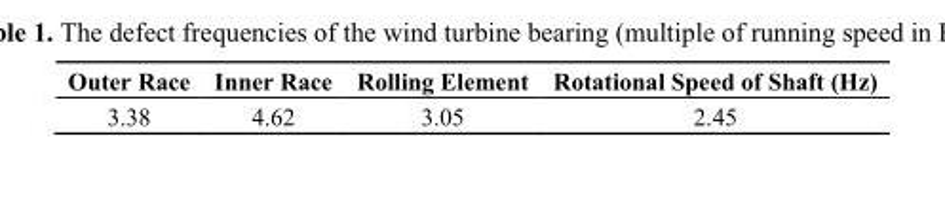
<table><thead><tr><td>Outer Race</td><td>Inner Race</td><td>Rolling Element</td><td>Rotational Speed of Shaft (Hz)</td></tr></thead><tbody><tr><td>3.38</td><td>4.62</td><td>3.05</td><td>2.45</td></tr></tbody></table>